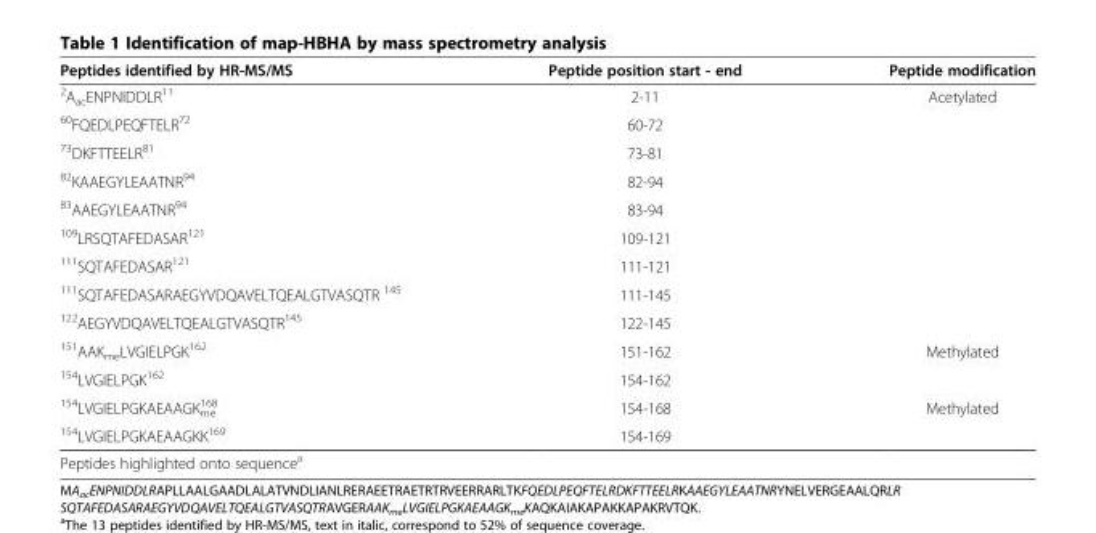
<table><thead><tr><td>Peptides identified by HR-MS/MS</td><td>Peptide position start - end</td><td>Peptide modification</td></tr></thead><tbody><tr><td><sup>2</sup>A<sub>ac</sub>ENPNIDDLR<sup>11</sup></td><td>2-11</td><td>Acetylated</td></tr><tr><td><sup>60</sup>FQEDLPEQFTELR<sup>72</sup></td><td>60-72</td><td></td></tr><tr><td><sup>73</sup>DKFTTEELR<sup>81</sup></td><td>73-81</td><td></td></tr><tr><td><sup>82</sup>KAAEGYLEAATNR<sup>94</sup></td><td>82-94</td><td></td></tr><tr><td><sup>83</sup>AAEGYLEAATNR<sup>94</sup></td><td>83-94</td><td></td></tr><tr><td><sup>109</sup>LRSQTAFEDASAR<sup>121</sup></td><td>109-121</td><td></td></tr><tr><td><sup>111</sup>SQTAFEDASAR<sup>121</sup></td><td>111-121</td><td></td></tr><tr><td><sup>111</sup>SQTAFEDASARAEGYVDQAVELTQEALGTVASQTR <sup>145</sup></td><td>111-145</td><td></td></tr><tr><td><sup>122</sup>AEGYVDQAVELTQEALGTVASQTR<sup>145</sup></td><td>122-145</td><td></td></tr><tr><td><sup>151</sup>AAK<sub>me</sub>LVGIELPGK<sup>162</sup></td><td>151-162</td><td>Methylated</td></tr><tr><td><sup>154</sup>LVGIELPGK<sup>162</sup></td><td>154-162</td><td></td></tr><tr><td><sup>154</sup>LVGIELPGKAEAAGK<sub>me</sub> <sup>168</sup></td><td>154-168</td><td>Methylated</td></tr><tr><td><sup>154</sup>LVGIELPGKAEAAGKK<sup>169</sup></td><td>154-169</td><td></td></tr><tr><td>Peptides highlighted onto sequence<sup>a</sup></td><td></td><td></td></tr></tbody></table>